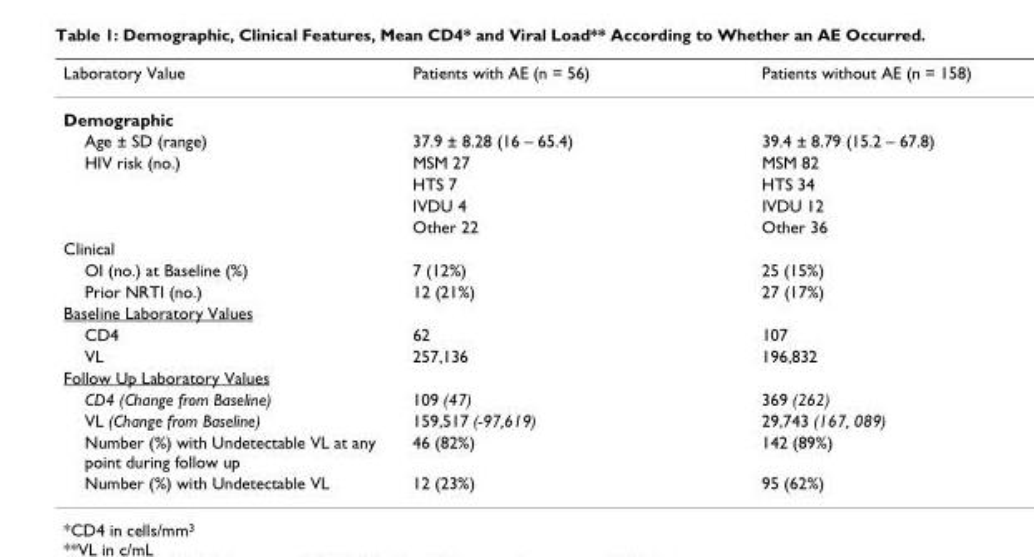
<table><thead><tr><td>Laboratory Value</td><td>Patients with AE (n = 56)</td><td>Patients without AE (n = 158)</td></tr></thead><tbody><tr><td colspan="3">Demographic</td></tr><tr><td>Age ± SD (range)</td><td>37.9 ± 8.28 (16 – 65.4)</td><td>39.4 ± 8.79 (15.2 – 67.8)</td></tr><tr><td rowspan="4">HIV risk (no.)</td><td>MSM 27</td><td>MSM 82</td></tr><tr><td>HTS 7</td><td>HTS 34</td></tr><tr><td>IVDU 4</td><td>IVDU 12</td></tr><tr><td>Other 22</td><td>Other 36</td></tr><tr><td colspan="3">Clinical</td></tr><tr><td>OI (no.) at Baseline (%)</td><td>7 (12%)</td><td>25 (15%)</td></tr><tr><td>Prior NRTI (no.)</td><td>12 (21%)</td><td>27 (17%)</td></tr><tr><td colspan="3">Baseline Laboratory Values</td></tr><tr><td>CD4</td><td>62</td><td>107</td></tr><tr><td>VL</td><td>257,136</td><td>196,832</td></tr><tr><td colspan="3">Follow Up Laboratory Values</td></tr><tr><td>CD4 (Change from Baseline)</td><td>109 (47)</td><td>369 (262)</td></tr><tr><td>VL (Change from Baseline)</td><td>159,517 (-97,619)</td><td>29,743 (167, 089)</td></tr><tr><td>Number (%) with Undetectable VL at any point during follow up</td><td>46 (82%)</td><td>142 (89%)</td></tr><tr><td>Number (%) with Undetectable VL</td><td>12 (23%)</td><td>95 (62%)</td></tr></tbody></table>